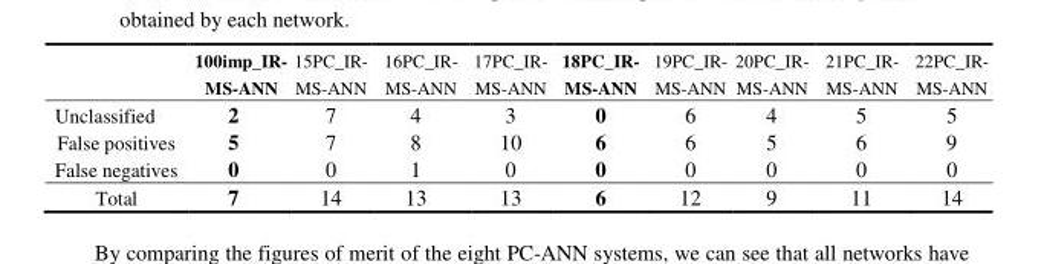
<table><thead><tr><td></td><td>100imp_IR- MS-ANN</td><td>15PC_IR- MS-ANN</td><td>16PC_IR- MS-ANN</td><td>17PC_IR- MS-ANN</td><td>18PC_IR- MS-ANN</td><td>19PC_IR- MS-ANN</td><td>20PC_IR- MS-ANN</td><td>21PC_IR- MS-ANN</td><td>22PC_IR- MS-ANN</td></tr></thead><tbody><tr><td>Unclassified</td><td>2</td><td>7</td><td>4</td><td>3</td><td>0</td><td>6</td><td>4</td><td>5</td><td>5</td></tr><tr><td>False positives</td><td>5</td><td>7</td><td>8</td><td>10</td><td>6</td><td>6</td><td>5</td><td>6</td><td>9</td></tr><tr><td>False negatives</td><td>0</td><td>0</td><td>1</td><td>0</td><td>0</td><td>0</td><td>0</td><td>0</td><td>0</td></tr><tr><td>Total</td><td>7</td><td>14</td><td>13</td><td>13</td><td>6</td><td>12</td><td>9</td><td>11</td><td>14</td></tr></tbody></table>